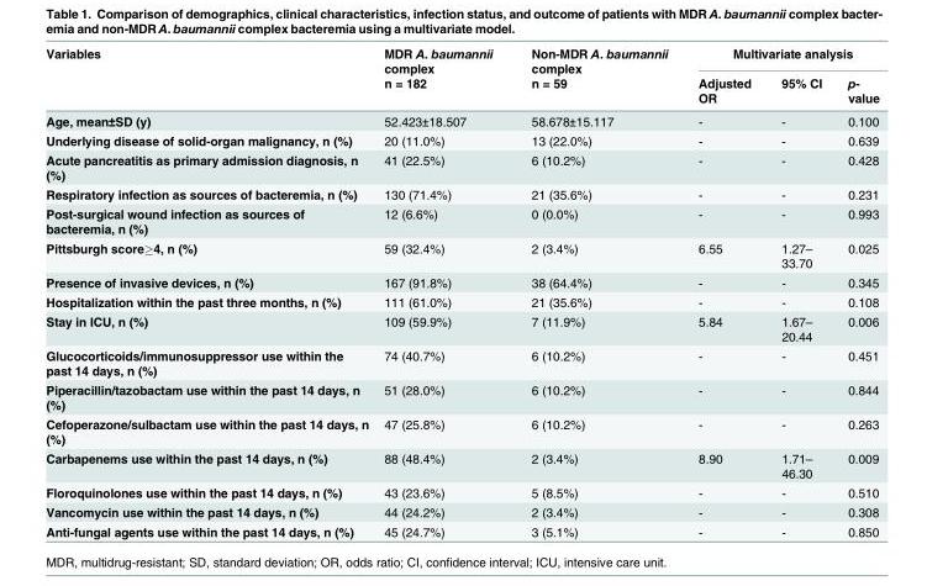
<table><thead><tr><td rowspan="2">Variables</td><td rowspan="2">MDR A. baumannii complex n = 182</td><td rowspan="2">Non-MDR A. baumannii complex n = 59</td><td colspan="3">Multivariate analysis</td></tr><tr><td>Adjusted OR</td><td>95% CI</td><td>p- value</td></tr></thead><tbody><tr><td>Age, mean±SD (y)</td><td>52.423±18.507</td><td>58.678±15.117</td><td>-</td><td>-</td><td>0.100</td></tr><tr><td>Underlying disease of solid-organ malignancy, n (%)</td><td>20 (11.0%)</td><td>13 (22.0%)</td><td>-</td><td>-</td><td>0.639</td></tr><tr><td>Acute pancreatitis as primary admission diagnosis, n (%)</td><td>41 (22.5%)</td><td>6 (10.2%)</td><td>-</td><td>-</td><td>0.428</td></tr><tr><td>Respiratory infection as sources of bacteremia, n (%)</td><td>130 (71.4%)</td><td>21 (35.6%)</td><td>-</td><td>-</td><td>0.231</td></tr><tr><td>Post-surgical wound infection as sources of bacteremia, n (%)</td><td>12 (6.6%)</td><td>0 (0.0%)</td><td>-</td><td>-</td><td>0.993</td></tr><tr><td>Pittsburgh score≥4, n (%)</td><td>59 (32.4%)</td><td>2 (3.4%)</td><td>6.55</td><td>1.27– 33.70</td><td>0.025</td></tr><tr><td>Presence of invasive devices, n (%)</td><td>167 (91.8%)</td><td>38 (64.4%)</td><td>-</td><td>-</td><td>0.345</td></tr><tr><td>Hospitalization within the past three months, n (%)</td><td>111 (61.0%)</td><td>21 (35.6%)</td><td>-</td><td>-</td><td>0.108</td></tr><tr><td>Stay in ICU, n (%)</td><td>109 (59.9%)</td><td>7 (11.9%)</td><td>5.84</td><td>1.67– 20.44</td><td>0.006</td></tr><tr><td>Glucocorticoids/immunosuppressor use within the past 14 days, n (%)</td><td>74 (40.7%)</td><td>6 (10.2%)</td><td>-</td><td>-</td><td>0.451</td></tr><tr><td>Piperacillin/tazobactam use within the past 14 days, n (%)</td><td>51 (28.0%)</td><td>6 (10.2%)</td><td>-</td><td>-</td><td>0.844</td></tr><tr><td>Cefoperazone/sulbactam use within the past 14 days, n (%)</td><td>47 (25.8%)</td><td>6 (10.2%)</td><td>-</td><td>-</td><td>0.263</td></tr><tr><td>Carbapenems use within the past 14 days, n (%)</td><td>88 (48.4%)</td><td>2 (3.4%)</td><td>8.90</td><td>1.71– 46.30</td><td>0.009</td></tr><tr><td>Floroquinolones use within the past 14 days, n (%)</td><td>43 (23.6%)</td><td>5 (8.5%)</td><td>-</td><td>-</td><td>0.510</td></tr><tr><td>Vancomycin use within the past 14 days, n (%)</td><td>44 (24.2%)</td><td>2 (3.4%)</td><td>-</td><td>-</td><td>0.308</td></tr><tr><td>Anti-fungal agents use within the past 14 days, n (%)</td><td>45 (24.7%)</td><td>3 (5.1%)</td><td>-</td><td>-</td><td>0.850</td></tr></tbody></table>